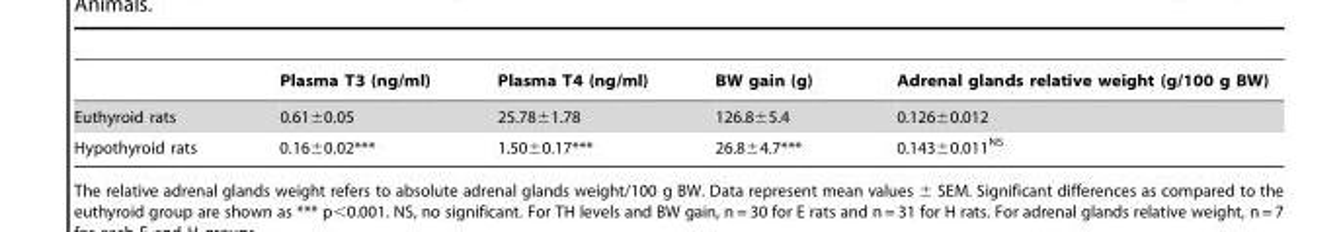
<table><thead><tr><td></td><td>Plasma T3 (ng/ml)</td><td>Plasma T4 (ng/ml)</td><td>BW gain (g)</td><td>Adrenal glands relative weight (g/100 g BW)</td></tr></thead><tbody><tr><td>Euthyroid rats</td><td>0.61±0.05</td><td>25.78±1.78</td><td>126.8±5.4</td><td>0.126±0.012</td></tr><tr><td>Hypothyroid rats</td><td>0.16±0.02***</td><td>1.50±0.17***</td><td>26.8±4.7***</td><td>0.143±0.011<sup>NS</sup></td></tr></tbody></table>